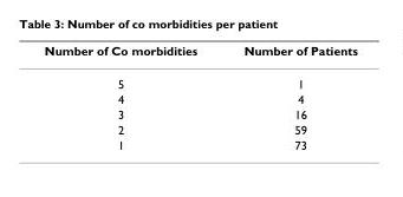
<table><thead><tr><td>Number of Co morbidities</td><td>Number of Patients</td></tr></thead><tbody><tr><td>5</td><td>1</td></tr><tr><td>4</td><td>4</td></tr><tr><td>3</td><td>16</td></tr><tr><td>2</td><td>59</td></tr><tr><td>1</td><td>73</td></tr></tbody></table>